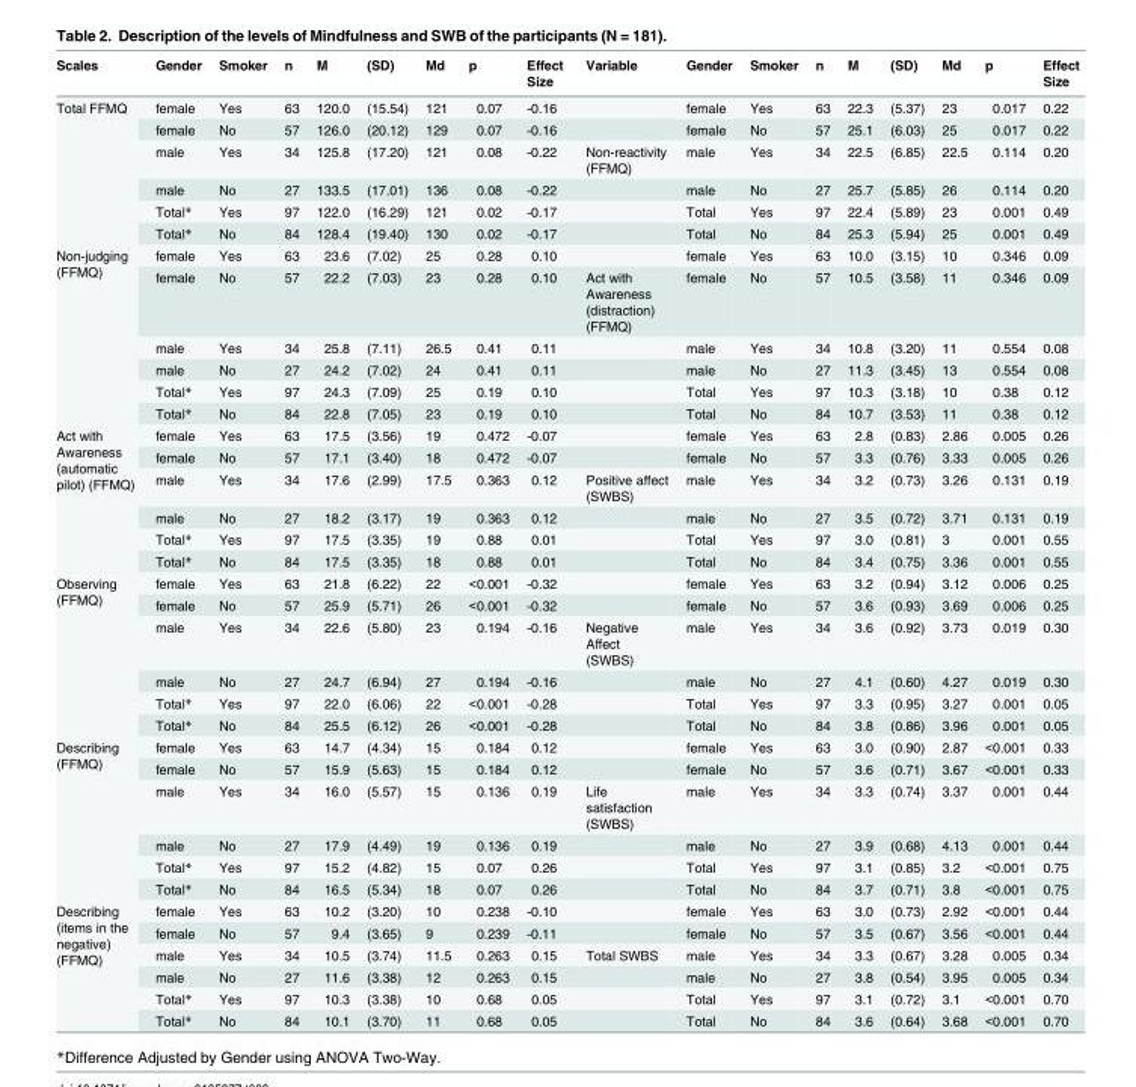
<table><thead><tr><td>Scales</td><td>Gender</td><td>Smoker</td><td>n</td><td>M</td><td>(SD)</td><td>Md</td><td>p</td><td>Effect Size</td><td>Variable</td><td>Gender</td><td>Smoker</td><td>n</td><td>M</td><td>(SD)</td><td>Md</td><td>p</td><td>Effect Size</td></tr></thead><tbody><tr><td rowspan="6">Total FFMQ</td><td>female</td><td>Yes</td><td>63</td><td>120.0</td><td>(15.54)</td><td>121</td><td>0.07</td><td>-0.16</td><td></td><td>female</td><td>Yes</td><td>63</td><td>22.3</td><td>(5.37)</td><td>23</td><td>0.017</td><td>0.22</td></tr><tr><td>female</td><td>No</td><td>57</td><td>126.0</td><td>(20.12)</td><td>129</td><td>0.07</td><td>-0.16</td><td></td><td>female</td><td>No</td><td>57</td><td>25.1</td><td>(6.03)</td><td>25</td><td>0.017</td><td>0.22</td></tr><tr><td>male</td><td>Yes</td><td>34</td><td>125.8</td><td>(17.20)</td><td>121</td><td>0.08</td><td>-0.22</td><td>Non-reactivity (FFMQ)</td><td>male</td><td>Yes</td><td>34</td><td>22.5</td><td>(6.85)</td><td>22.5</td><td>0.114</td><td>0.20</td></tr><tr><td>male</td><td>No</td><td>27</td><td>133.5</td><td>(17.01)</td><td>136</td><td>0.08</td><td>-0.22</td><td></td><td>male</td><td>No</td><td>27</td><td>25.7</td><td>(5.85)</td><td>26</td><td>0.114</td><td>0.20</td></tr><tr><td>Total*</td><td>Yes</td><td>97</td><td>122.0</td><td>(16.29)</td><td>121</td><td>0.02</td><td>-0.17</td><td></td><td>Total</td><td>Yes</td><td>97</td><td>22.4</td><td>(5.89)</td><td>23</td><td>0.001</td><td>0.49</td></tr><tr><td>Total*</td><td>No</td><td>84</td><td>128.4</td><td>(19.40)</td><td>130</td><td>0.02</td><td>-0.17</td><td></td><td>Total</td><td>No</td><td>84</td><td>25.3</td><td>(5.94)</td><td>25</td><td>0.001</td><td>0.49</td></tr><tr><td rowspan="6">Non-judging (FFMQ)</td><td>female</td><td>Yes</td><td>63</td><td>23.6</td><td>(7.02)</td><td>25</td><td>0.28</td><td>0.10</td><td></td><td>female</td><td>Yes</td><td>63</td><td>10.0</td><td>(3.15)</td><td>10</td><td>0.346</td><td>0.09</td></tr><tr><td>female</td><td>No</td><td>57</td><td>22.2</td><td>(7.03)</td><td>23</td><td>0.28</td><td>0.10</td><td>Act with Awareness (distraction) (FFMQ)</td><td>female</td><td>No</td><td>57</td><td>10.5</td><td>(3.58)</td><td>11</td><td>0.346</td><td>0.09</td></tr><tr><td>male</td><td>Yes</td><td>34</td><td>25.8</td><td>(7.11)</td><td>26.5</td><td>0.41</td><td>0.11</td><td></td><td>male</td><td>Yes</td><td>34</td><td>10.8</td><td>(3.20)</td><td>11</td><td>0.554</td><td>0.08</td></tr><tr><td>male</td><td>No</td><td>27</td><td>24.2</td><td>(7.02)</td><td>24</td><td>0.41</td><td>0.11</td><td></td><td>male</td><td>No</td><td>27</td><td>11.3</td><td>(3.45)</td><td>13</td><td>0.554</td><td>0.08</td></tr><tr><td>Total*</td><td>Yes</td><td>97</td><td>24.3</td><td>(7.09)</td><td>25</td><td>0.19</td><td>0.10</td><td></td><td>Total</td><td>Yes</td><td>97</td><td>10.3</td><td>(3.18)</td><td>10</td><td>0.38</td><td>0.12</td></tr><tr><td>Total*</td><td>No</td><td>84</td><td>22.8</td><td>(7.05)</td><td>23</td><td>0.19</td><td>0.10</td><td></td><td>Total</td><td>No</td><td>84</td><td>10.7</td><td>(3.53)</td><td>11</td><td>0.38</td><td>0.12</td></tr><tr><td rowspan="6">Act with Awareness (automatic pilot) (FFMQ)</td><td>female</td><td>Yes</td><td>63</td><td>17.5</td><td>(3.56)</td><td>19</td><td>0.472</td><td>-0.07</td><td></td><td>female</td><td>Yes</td><td>63</td><td>2.8</td><td>(0.83)</td><td>2.86</td><td>0.005</td><td>0.26</td></tr><tr><td>female</td><td>No</td><td>57</td><td>17.1</td><td>(3.40)</td><td>18</td><td>0.472</td><td>-0.07</td><td></td><td>female</td><td>No</td><td>57</td><td>3.3</td><td>(0.76)</td><td>3.33</td><td>0.005</td><td>0.26</td></tr><tr><td>male</td><td>Yes</td><td>34</td><td>17.6</td><td>(2.99)</td><td>17.5</td><td>0.363</td><td>0.12</td><td>Positive affect (SWBS)</td><td>male</td><td>Yes</td><td>34</td><td>3.2</td><td>(0.73)</td><td>3.26</td><td>0.131</td><td>0.19</td></tr><tr><td>male</td><td>No</td><td>27</td><td>18.2</td><td>(3.17)</td><td>19</td><td>0.363</td><td>0.12</td><td></td><td>male</td><td>No</td><td>27</td><td>3.5</td><td>(0.72)</td><td>3.71</td><td>0.131</td><td>0.19</td></tr><tr><td>Total*</td><td>Yes</td><td>97</td><td>17.5</td><td>(3.35)</td><td>19</td><td>0.88</td><td>0.01</td><td></td><td>Total</td><td>Yes</td><td>97</td><td>3.0</td><td>(0.81)</td><td>3</td><td>0.001</td><td>0.55</td></tr><tr><td>Total*</td><td>No</td><td>84</td><td>17.5</td><td>(3.35)</td><td>18</td><td>0.88</td><td>0.01</td><td></td><td>Total</td><td>No</td><td>84</td><td>3.4</td><td>(0.75)</td><td>3.36</td><td>0.001</td><td>0.55</td></tr><tr><td rowspan="6">Observing (FFMQ)</td><td>female</td><td>Yes</td><td>63</td><td>21.8</td><td>(6.22)</td><td>22</td><td>&lt;0.001</td><td>-0.32</td><td></td><td>female</td><td>Yes</td><td>63</td><td>3.2</td><td>(0.94)</td><td>3.12</td><td>0.006</td><td>0.25</td></tr><tr><td>female</td><td>No</td><td>57</td><td>25.9</td><td>(5.71)</td><td>26</td><td>&lt;0.001</td><td>-0.32</td><td></td><td>female</td><td>No</td><td>57</td><td>3.6</td><td>(0.93)</td><td>3.69</td><td>0.006</td><td>0.25</td></tr><tr><td>male</td><td>Yes</td><td>34</td><td>22.6</td><td>(5.80)</td><td>23</td><td>0.194</td><td>-0.16</td><td>Negative Affect (SWBS)</td><td>male</td><td>Yes</td><td>34</td><td>3.6</td><td>(0.92)</td><td>3.73</td><td>0.019</td><td>0.30</td></tr><tr><td>male</td><td>No</td><td>27</td><td>24.7</td><td>(6.94)</td><td>27</td><td>0.194</td><td>-0.16</td><td></td><td>male</td><td>No</td><td>27</td><td>4.1</td><td>(0.60)</td><td>4.27</td><td>0.019</td><td>0.30</td></tr><tr><td>Total*</td><td>Yes</td><td>97</td><td>22.0</td><td>(6.06)</td><td>22</td><td>&lt;0.001</td><td>-0.28</td><td></td><td>Total</td><td>Yes</td><td>97</td><td>3.3</td><td>(0.95)</td><td>3.27</td><td>0.001</td><td>0.05</td></tr><tr><td>Total*</td><td>No</td><td>84</td><td>25.5</td><td>(6.12)</td><td>26</td><td>&lt;0.001</td><td>-0.28</td><td></td><td>Total</td><td>No</td><td>84</td><td>3.8</td><td>(0.86)</td><td>3.96</td><td>0.001</td><td>0.05</td></tr><tr><td rowspan="6">Describing (FFMQ)</td><td>female</td><td>Yes</td><td>63</td><td>14.7</td><td>(4.34)</td><td>15</td><td>0.184</td><td>0.12</td><td></td><td>female</td><td>Yes</td><td>63</td><td>3.0</td><td>(0.90)</td><td>2.87</td><td>&lt;0.001</td><td>0.33</td></tr><tr><td>female</td><td>No</td><td>57</td><td>15.9</td><td>(5.63)</td><td>15</td><td>0.184</td><td>0.12</td><td></td><td>female</td><td>No</td><td>57</td><td>3.6</td><td>(0.71)</td><td>3.67</td><td>&lt;0.001</td><td>0.33</td></tr><tr><td>male</td><td>Yes</td><td>34</td><td>16.0</td><td>(5.57)</td><td>15</td><td>0.136</td><td>0.19</td><td>Life satisfaction (SWBS)</td><td>male</td><td>Yes</td><td>34</td><td>3.3</td><td>(0.74)</td><td>3.37</td><td>0.001</td><td>0.44</td></tr><tr><td>male</td><td>No</td><td>27</td><td>17.9</td><td>(4.49)</td><td>19</td><td>0.136</td><td>0.19</td><td></td><td>male</td><td>No</td><td>27</td><td>3.9</td><td>(0.68)</td><td>4.13</td><td>0.001</td><td>0.44</td></tr><tr><td>Total*</td><td>Yes</td><td>97</td><td>15.2</td><td>(4.82)</td><td>15</td><td>0.07</td><td>0.26</td><td></td><td>Total</td><td>Yes</td><td>97</td><td>3.1</td><td>(0.85)</td><td>3.2</td><td>&lt;0.001</td><td>0.75</td></tr><tr><td>Total*</td><td>No</td><td>84</td><td>16.5</td><td>(5.34)</td><td>18</td><td>0.07</td><td>0.26</td><td></td><td>Total</td><td>No</td><td>84</td><td>3.7</td><td>(0.71)</td><td>3.8</td><td>&lt;0.001</td><td>0.75</td></tr><tr><td rowspan="6">Describing (items in the negative) (FFMQ)</td><td>female</td><td>Yes</td><td>63</td><td>10.2</td><td>(3.20)</td><td>10</td><td>0.238</td><td>-0.10</td><td></td><td>female</td><td>Yes</td><td>63</td><td>3.0</td><td>(0.73)</td><td>2.92</td><td>&lt;0.001</td><td>0.44</td></tr><tr><td>female</td><td>No</td><td>57</td><td>9.4</td><td>(3.65)</td><td>9</td><td>0.239</td><td>-0.11</td><td></td><td>female</td><td>No</td><td>57</td><td>3.5</td><td>(0.67)</td><td>3.56</td><td>&lt;0.001</td><td>0.44</td></tr><tr><td>male</td><td>Yes</td><td>34</td><td>10.5</td><td>(3.74)</td><td>11.5</td><td>0.263</td><td>0.15</td><td>Total SWBS</td><td>male</td><td>Yes</td><td>34</td><td>3.3</td><td>(0.67)</td><td>3.28</td><td>0.005</td><td>0.34</td></tr><tr><td>male</td><td>No</td><td>27</td><td>11.6</td><td>(3.38)</td><td>12</td><td>0.263</td><td>0.15</td><td></td><td>male</td><td>No</td><td>27</td><td>3.8</td><td>(0.54)</td><td>3.95</td><td>0.005</td><td>0.34</td></tr><tr><td>Total*</td><td>Yes</td><td>97</td><td>10.3</td><td>(3.38)</td><td>10</td><td>0.68</td><td>0.05</td><td></td><td>Total</td><td>Yes</td><td>97</td><td>3.1</td><td>(0.72)</td><td>3.1</td><td>&lt;0.001</td><td>0.70</td></tr><tr><td>Total*</td><td>No</td><td>84</td><td>10.1</td><td>(3.70)</td><td>11</td><td>0.68</td><td>0.05</td><td></td><td>Total</td><td>No</td><td>84</td><td>3.6</td><td>(0.64)</td><td>3.68</td><td>&lt;0.001</td><td>0.70</td></tr></tbody></table>